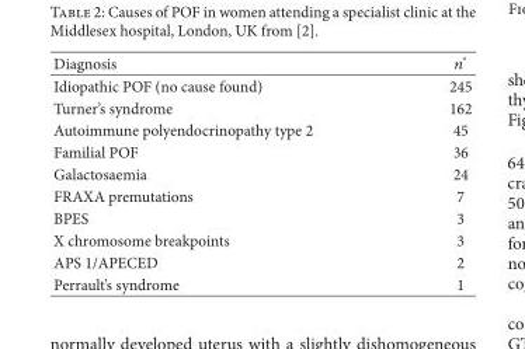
<table><thead><tr><td>Diagnosis</td><td>𝑛𝑛∘</td></tr></thead><tbody><tr><td>Idiopathic POF (no cause found)</td><td>245</td></tr><tr><td>Turner’s syndrome</td><td>162</td></tr><tr><td>Autoimmune polyendocrinopathy type 2</td><td>45</td></tr><tr><td>Familial POF</td><td>36</td></tr><tr><td>Galactosaemia</td><td>24</td></tr><tr><td>FRAXA premutations</td><td>7</td></tr><tr><td>BPES</td><td>3</td></tr><tr><td>X chromosome breakpoints</td><td>3</td></tr><tr><td>APS 1/APECED</td><td>2</td></tr><tr><td>Perrault’s syndrome</td><td>1</td></tr></tbody></table>